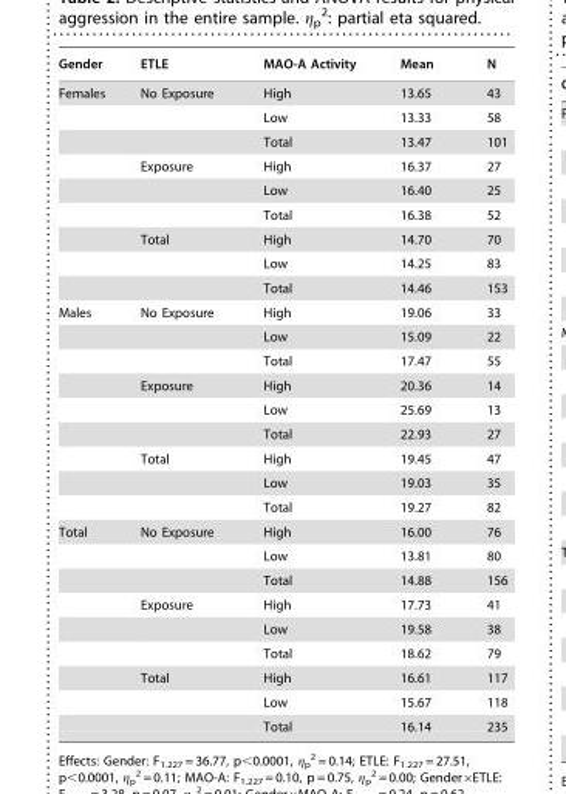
<table><thead><tr><td>Gender</td><td>ETLE</td><td>MAO-A Activity</td><td>Mean</td><td>N</td></tr></thead><tbody><tr><td rowspan="9">Females</td><td>No Exposure</td><td>High</td><td>13.65</td><td>43</td></tr><tr><td></td><td>Low</td><td>13.33</td><td>58</td></tr><tr><td></td><td>Total</td><td>13.47</td><td>101</td></tr><tr><td>Exposure</td><td>High</td><td>16.37</td><td>27</td></tr><tr><td></td><td>Low</td><td>16.40</td><td>25</td></tr><tr><td></td><td>Total</td><td>16.38</td><td>52</td></tr><tr><td>Total</td><td>High</td><td>14.70</td><td>70</td></tr><tr><td></td><td>Low</td><td>14.25</td><td>83</td></tr><tr><td></td><td>Total</td><td>14.46</td><td>153</td></tr><tr><td rowspan="9">Males</td><td>No Exposure</td><td>High</td><td>19.06</td><td>33</td></tr><tr><td></td><td>Low</td><td>15.09</td><td>22</td></tr><tr><td></td><td>Total</td><td>17.47</td><td>55</td></tr><tr><td>Exposure</td><td>High</td><td>20.36</td><td>14</td></tr><tr><td></td><td>Low</td><td>25.69</td><td>13</td></tr><tr><td></td><td>Total</td><td>22.93</td><td>27</td></tr><tr><td>Total</td><td>High</td><td>19.45</td><td>47</td></tr><tr><td></td><td>Low</td><td>19.03</td><td>35</td></tr><tr><td></td><td>Total</td><td>19.27</td><td>82</td></tr><tr><td rowspan="9">Total</td><td>No Exposure</td><td>High</td><td>16.00</td><td>76</td></tr><tr><td></td><td>Low</td><td>13.81</td><td>80</td></tr><tr><td></td><td>Total</td><td>14.88</td><td>156</td></tr><tr><td>Exposure</td><td>High</td><td>17.73</td><td>41</td></tr><tr><td></td><td>Low</td><td>19.58</td><td>38</td></tr><tr><td></td><td>Total</td><td>18.62</td><td>79</td></tr><tr><td>Total</td><td>High</td><td>16.61</td><td>117</td></tr><tr><td></td><td>Low</td><td>15.67</td><td>118</td></tr><tr><td></td><td>Total</td><td>16.14</td><td>235</td></tr></tbody></table>